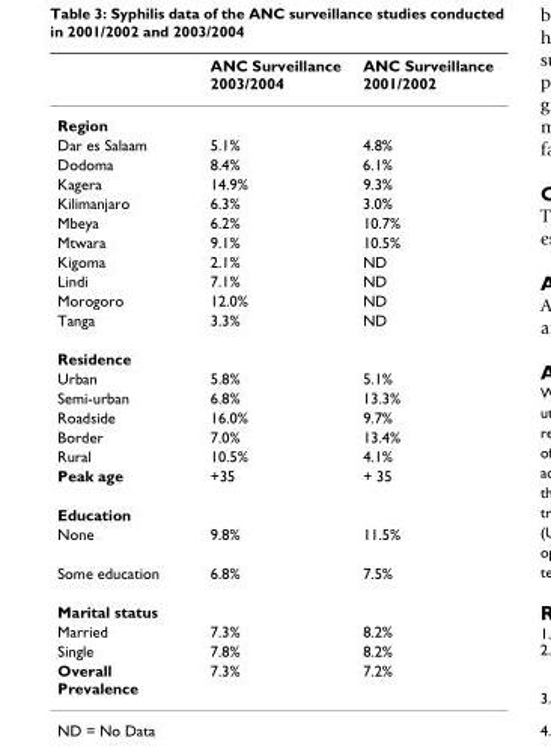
<table><thead><tr><td></td><td>ANC Surveillance 2003/2004</td><td>ANC Surveillance 2001/2002</td></tr></thead><tbody><tr><td colspan="3">Region</td></tr><tr><td>Dar es Salaam</td><td>5.1%</td><td>4.8%</td></tr><tr><td>Dodoma</td><td>8.4%</td><td>6.1%</td></tr><tr><td>Kagera</td><td>14.9%</td><td>9.3%</td></tr><tr><td>Kilimanjaro</td><td>6.3%</td><td>3.0%</td></tr><tr><td>Mbeya</td><td>6.2%</td><td>10.7%</td></tr><tr><td>Mtwara</td><td>9.1%</td><td>10.5%</td></tr><tr><td>Kigoma</td><td>2.1%</td><td>ND</td></tr><tr><td>Lindi</td><td>7.1%</td><td>ND</td></tr><tr><td>Morogoro</td><td>12.0%</td><td>ND</td></tr><tr><td>Tanga</td><td>3.3%</td><td>ND</td></tr><tr><td colspan="3">Residence</td></tr><tr><td>Urban</td><td>5.8%</td><td>5.1%</td></tr><tr><td>Semi-urban</td><td>6.8%</td><td>13.3%</td></tr><tr><td>Roadside</td><td>16.0%</td><td>9.7%</td></tr><tr><td>Border</td><td>7.0%</td><td>13.4%</td></tr><tr><td>Rural</td><td>10.5%</td><td>4.1%</td></tr><tr><td>Peak age</td><td>+35</td><td>+ 35</td></tr><tr><td colspan="3">Education</td></tr><tr><td>None</td><td>9.8%</td><td>11.5%</td></tr><tr><td>Some education</td><td>6.8%</td><td>7.5%</td></tr><tr><td colspan="3">Marital status</td></tr><tr><td>Married</td><td>7.3%</td><td>8.2%</td></tr><tr><td>Single</td><td>7.8%</td><td>8.2%</td></tr><tr><td>Overall Prevalence</td><td>7.3%</td><td>7.2%</td></tr></tbody></table>